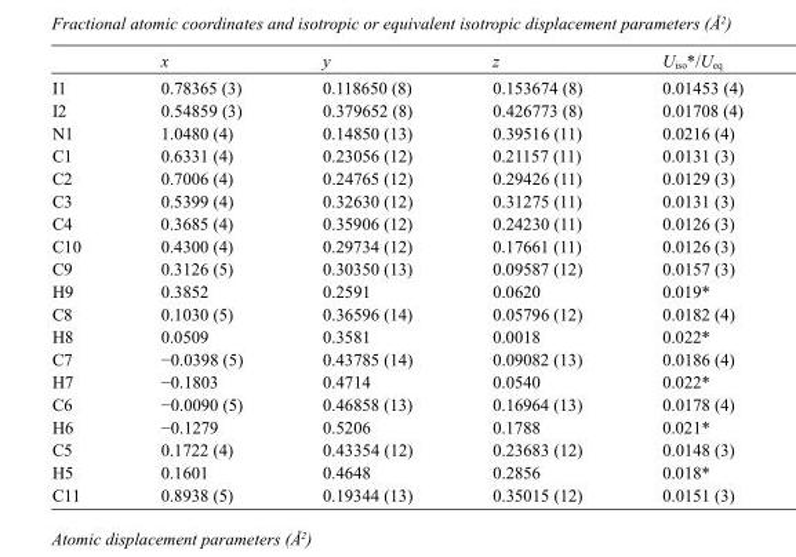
<table><thead><tr><td></td><td>x</td><td>y</td><td>z</td><td>U<sub>iso</sub>*/U<sub>eq</sub></td></tr></thead><tbody><tr><td>I1</td><td>0.78365 (3)</td><td>0.118650 (8)</td><td>0.153674 (8)</td><td>0.01453 (4)</td></tr><tr><td>I2</td><td>0.54859 (3)</td><td>0.379652 (8)</td><td>0.426773 (8)</td><td>0.01708 (4)</td></tr><tr><td>N1</td><td>1.0480 (4)</td><td>0.14850 (13)</td><td>0.39516 (11)</td><td>0.0216 (4)</td></tr><tr><td>C1</td><td>0.6331 (4)</td><td>0.23056 (12)</td><td>0.21157 (11)</td><td>0.0131 (3)</td></tr><tr><td>C2</td><td>0.7006 (4)</td><td>0.24765 (12)</td><td>0.29426 (11)</td><td>0.0129 (3)</td></tr><tr><td>C3</td><td>0.5399 (4)</td><td>0.32630 (12)</td><td>0.31275 (11)</td><td>0.0131 (3)</td></tr><tr><td>C4</td><td>0.3685 (4)</td><td>0.35906 (12)</td><td>0.24230 (11)</td><td>0.0126 (3)</td></tr><tr><td>C10</td><td>0.4300 (4)</td><td>0.29734 (12)</td><td>0.17661 (11)</td><td>0.0126 (3)</td></tr><tr><td>C9</td><td>0.3126 (5)</td><td>0.30350 (13)</td><td>0.09587 (12)</td><td>0.0157 (3)</td></tr><tr><td>H9</td><td>0.3852</td><td>0.2591</td><td>0.0620</td><td>0.019*</td></tr><tr><td>C8</td><td>0.1030 (5)</td><td>0.36596 (14)</td><td>0.05796 (12)</td><td>0.0182 (4)</td></tr><tr><td>H8</td><td>0.0509</td><td>0.3581</td><td>0.0018</td><td>0.022*</td></tr><tr><td>C7</td><td>−0.0398 (5)</td><td>0.43785 (14)</td><td>0.09082 (13)</td><td>0.0186 (4)</td></tr><tr><td>H7</td><td>−0.1803</td><td>0.4714</td><td>0.0540</td><td>0.022*</td></tr><tr><td>C6</td><td>−0.0090 (5)</td><td>0.46858 (13)</td><td>0.16964 (13)</td><td>0.0178 (4)</td></tr><tr><td>H6</td><td>−0.1279</td><td>0.5206</td><td>0.1788</td><td>0.021*</td></tr><tr><td>C5</td><td>0.1722 (4)</td><td>0.43354 (12)</td><td>0.23683 (12)</td><td>0.0148 (3)</td></tr><tr><td>H5</td><td>0.1601</td><td>0.4648</td><td>0.2856</td><td>0.018*</td></tr><tr><td>C11</td><td>0.8938 (5)</td><td>0.19344 (13)</td><td>0.35015 (12)</td><td>0.0151 (3)</td></tr></tbody></table>